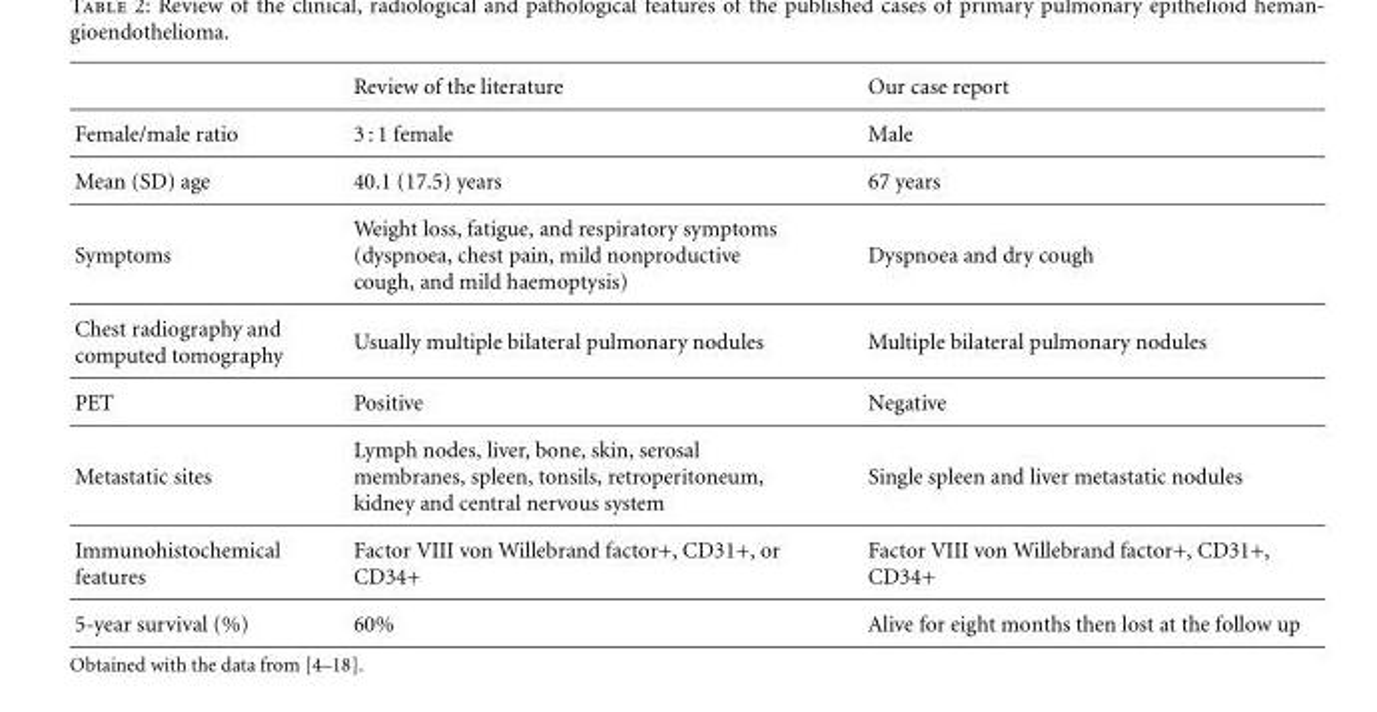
<table><thead><tr><td></td><td>Review of the literature</td><td>Our case report</td></tr></thead><tbody><tr><td>Female/male ratio</td><td>3 : 1 female</td><td>Male</td></tr><tr><td>Mean (SD) age</td><td>40.1 (17.5) years</td><td>67 years</td></tr><tr><td>Symptoms</td><td>Weight loss, fatigue, and respiratory symptoms (dyspnoea, chest pain, mild nonproductive cough, and mild haemoptysis)</td><td>Dyspnoea and dry cough</td></tr><tr><td>Chest radiography and computed tomography</td><td>Usually multiple bilateral pulmonary nodules</td><td>Multiple bilateral pulmonary nodules</td></tr><tr><td>PET</td><td>Positive</td><td>Negative</td></tr><tr><td>Metastatic sites</td><td>Lymph nodes, liver, bone, skin, serosal membranes, spleen, tonsils, retroperitoneum, kidney and central nervous system</td><td>Single spleen and liver metastatic nodules</td></tr><tr><td>Immunohistochemical features</td><td>Factor VIII von Willebrand factor+, CD31+, or CD34+</td><td>Factor VIII von Willebrand factor+, CD31+, CD34+</td></tr><tr><td>5-year survival (%)</td><td>60%</td><td>Alive for eight months then lost at the follow up</td></tr></tbody></table>